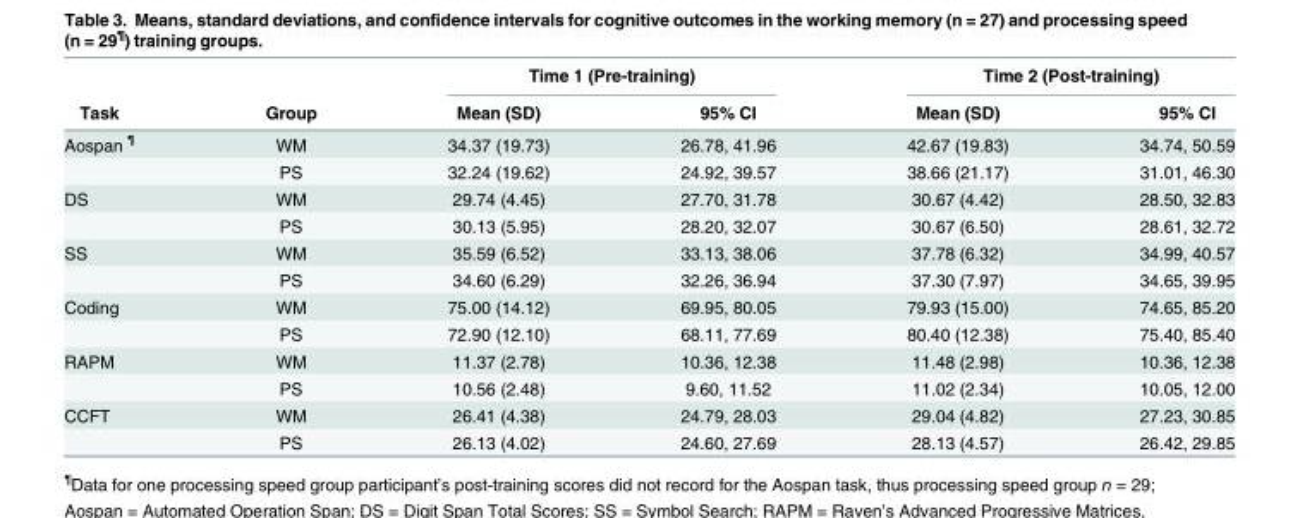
<table><thead><tr><td rowspan="2">Task</td><td rowspan="2">Group</td><td colspan="2">Time 1 (Pre-training)</td><td colspan="2">Time 2 (Post-training)</td></tr><tr><td>Mean (SD)</td><td>95% CI</td><td>Mean (SD)</td><td>95% CI</td></tr></thead><tbody><tr><td rowspan="2">Aospan <sup>¶</sup></td><td>WM</td><td>34.37 (19.73)</td><td>26.78, 41.96</td><td>42.67 (19.83)</td><td>34.74, 50.59</td></tr><tr><td>PS</td><td>32.24 (19.62)</td><td>24.92, 39.57</td><td>38.66 (21.17)</td><td>31.01, 46.30</td></tr><tr><td rowspan="2">DS</td><td>WM</td><td>29.74 (4.45)</td><td>27.70, 31.78</td><td>30.67 (4.42)</td><td>28.50, 32.83</td></tr><tr><td>PS</td><td>30.13 (5.95)</td><td>28.20, 32.07</td><td>30.67 (6.50)</td><td>28.61, 32.72</td></tr><tr><td rowspan="2">SS</td><td>WM</td><td>35.59 (6.52)</td><td>33.13, 38.06</td><td>37.78 (6.32)</td><td>34.99, 40.57</td></tr><tr><td>PS</td><td>34.60 (6.29)</td><td>32.26, 36.94</td><td>37.30 (7.97)</td><td>34.65, 39.95</td></tr><tr><td rowspan="2">Coding</td><td>WM</td><td>75.00 (14.12)</td><td>69.95, 80.05</td><td>79.93 (15.00)</td><td>74.65, 85.20</td></tr><tr><td>PS</td><td>72.90 (12.10)</td><td>68.11, 77.69</td><td>80.40 (12.38)</td><td>75.40, 85.40</td></tr><tr><td rowspan="2">RAPM</td><td>WM</td><td>11.37 (2.78)</td><td>10.36, 12.38</td><td>11.48 (2.98)</td><td>10.36, 12.38</td></tr><tr><td>PS</td><td>10.56 (2.48)</td><td>9.60, 11.52</td><td>11.02 (2.34)</td><td>10.05, 12.00</td></tr><tr><td rowspan="2">CCFT</td><td>WM</td><td>26.41 (4.38)</td><td>24.79, 28.03</td><td>29.04 (4.82)</td><td>27.23, 30.85</td></tr><tr><td>PS</td><td>26.13 (4.02)</td><td>24.60, 27.69</td><td>28.13 (4.57)</td><td>26.42, 29.85</td></tr></tbody></table>